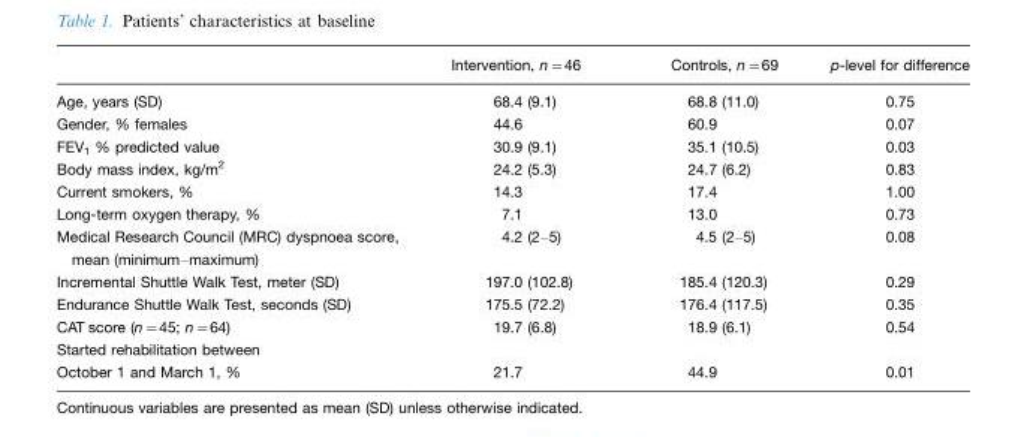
<table><thead><tr><td></td><td>Intervention, n=46</td><td>Controls, n=69</td><td>p-level for difference</td></tr></thead><tbody><tr><td>Age, years (SD)</td><td>68.4 (9.1)</td><td>68.8 (11.0)</td><td>0.75</td></tr><tr><td>Gender, % females</td><td>44.6</td><td>60.9</td><td>0.07</td></tr><tr><td>FEV<sub>1</sub> % predicted value</td><td>30.9 (9.1)</td><td>35.1 (10.5)</td><td>0.03</td></tr><tr><td>Body mass index, kg/m<sup>2</sup></td><td>24.2 (5.3)</td><td>24.7 (6.2)</td><td>0.83</td></tr><tr><td>Current smokers, %</td><td>14.3</td><td>17.4</td><td>1.00</td></tr><tr><td>Long-term oxygen therapy, %</td><td>7.1</td><td>13.0</td><td>0.73</td></tr><tr><td>Medical Research Council (MRC) dyspnoea score, mean (minimum–maximum)</td><td>4.2 (2–5)</td><td>4.5 (2–5)</td><td>0.08</td></tr><tr><td>Incremental Shuttle Walk Test, meter (SD)</td><td>197.0 (102.8)</td><td>185.4 (120.3)</td><td>0.29</td></tr><tr><td>Endurance Shuttle Walk Test, seconds (SD)</td><td>175.5 (72.2)</td><td>176.4 (117.5)</td><td>0.35</td></tr><tr><td>CAT score (n=45; n=64)</td><td>19.7 (6.8)</td><td>18.9 (6.1)</td><td>0.54</td></tr><tr><td colspan="4">Started rehabilitation between</td></tr><tr><td>October 1 and March 1, %</td><td>21.7</td><td>44.9</td><td>0.01</td></tr></tbody></table>